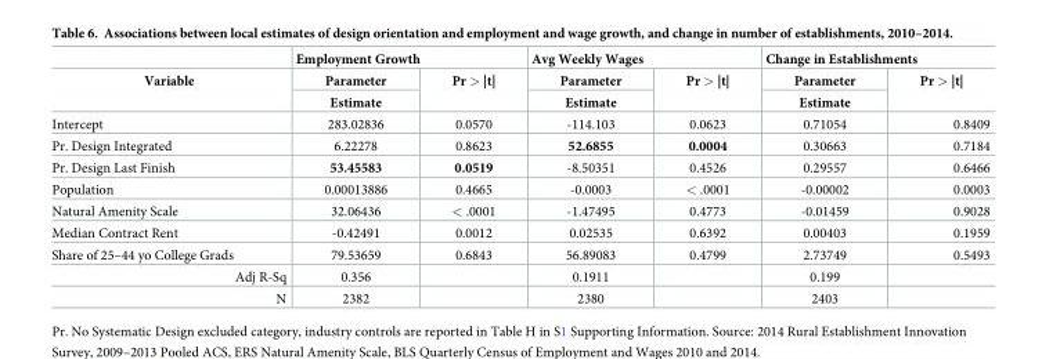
<table><thead><tr><td rowspan="3">Variable</td><td colspan="2">Employment Growth</td><td colspan="2">Avg Weekly Wages</td><td colspan="2">Change in Establishments</td></tr><tr><td rowspan="2">Parameter Estimate</td><td rowspan="2">Pr &gt; |t|</td><td rowspan="2">Parameter Estimate</td><td rowspan="2">Pr &gt; |t|</td><td rowspan="2">Parameter Estimate</td><td rowspan="2">Pr &gt; |t|</td></tr><tr></tr></thead><tbody><tr><td>Intercept</td><td>283.02836</td><td>0.0570</td><td>-114.103</td><td>0.0623</td><td>0.71054</td><td>0.8409</td></tr><tr><td>Pr. Design Integrated</td><td>6.22278</td><td>0.8623</td><td>52.6855</td><td>0.0004</td><td>0.30663</td><td>0.7184</td></tr><tr><td>Pr. Design Last Finish</td><td>53.45583</td><td>0.0519</td><td>-8.50351</td><td>0.4526</td><td>0.29557</td><td>0.6466</td></tr><tr><td>Population</td><td>0.00013886</td><td>0.4665</td><td>-0.0003</td><td>&lt; .0001</td><td>-0.00002</td><td>0.0003</td></tr><tr><td>Natural Amenity Scale</td><td>32.06436</td><td>&lt; .0001</td><td>-1.47495</td><td>0.4773</td><td>-0.01459</td><td>0.9028</td></tr><tr><td>Median Contract Rent</td><td>-0.42491</td><td>0.0012</td><td>0.02535</td><td>0.6392</td><td>0.00403</td><td>0.1959</td></tr><tr><td>Share of 25–44 yo College Grads</td><td>79.53659</td><td>0.6843</td><td>56.89083</td><td>0.4799</td><td>2.73749</td><td>0.5493</td></tr><tr><td>Adj R-Sq</td><td>0.356</td><td></td><td>0.1911</td><td></td><td>0.199</td><td></td></tr><tr><td>N</td><td>2382</td><td></td><td>2380</td><td></td><td>2403</td><td></td></tr></tbody></table>